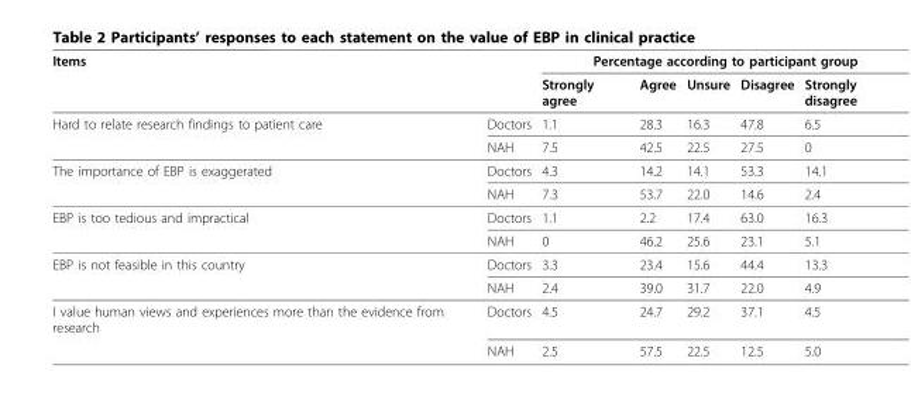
<table><thead><tr><td rowspan="2">Items</td><td rowspan="2"></td><td colspan="5">Percentage according to participant group</td></tr><tr><td>Strongly agree</td><td>Agree</td><td>Unsure</td><td>Disagree</td><td>Strongly disagree</td></tr></thead><tbody><tr><td rowspan="2">Hard to relate research findings to patient care</td><td>Doctors</td><td>1.1</td><td>28.3</td><td>16.3</td><td>47.8</td><td>6.5</td></tr><tr><td>NAH</td><td>7.5</td><td>42.5</td><td>22.5</td><td>27.5</td><td>0</td></tr><tr><td rowspan="2">The importance of EBP is exaggerated</td><td>Doctors</td><td>4.3</td><td>14.2</td><td>14.1</td><td>53.3</td><td>14.1</td></tr><tr><td>NAH</td><td>7.3</td><td>53.7</td><td>22.0</td><td>14.6</td><td>2.4</td></tr><tr><td rowspan="2">EBP is too tedious and impractical</td><td>Doctors</td><td>1.1</td><td>2.2</td><td>17.4</td><td>63.0</td><td>16.3</td></tr><tr><td>NAH</td><td>0</td><td>46.2</td><td>25.6</td><td>23.1</td><td>5.1</td></tr><tr><td rowspan="2">EBP is not feasible in this country</td><td>Doctors</td><td>3.3</td><td>23.4</td><td>15.6</td><td>44.4</td><td>13.3</td></tr><tr><td>NAH</td><td>2.4</td><td>39.0</td><td>31.7</td><td>22.0</td><td>4.9</td></tr><tr><td rowspan="2">I value human views and experiences more than the evidence from research</td><td>Doctors</td><td>4.5</td><td>24.7</td><td>29.2</td><td>37.1</td><td>4.5</td></tr><tr><td>NAH</td><td>2.5</td><td>57.5</td><td>22.5</td><td>12.5</td><td>5.0</td></tr></tbody></table>